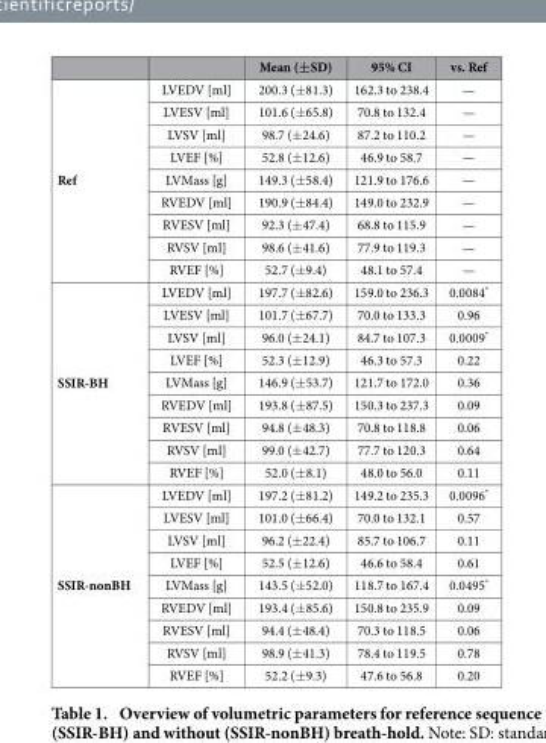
<table><thead><tr><td></td><td></td><td>Mean (±SD)</td><td>95% CI</td><td>vs. Ref</td></tr></thead><tbody><tr><td rowspan="9">Ref</td><td>LVEDV [ml]</td><td>200.3 (± 81.3)</td><td>162.3 to 238.4</td><td>—</td></tr><tr><td>LVESV [ml]</td><td>101.6 (± 65.8)</td><td>70.8 to 132.4</td><td>—</td></tr><tr><td>LVSV [ml]</td><td>98.7 (± 24.6)</td><td>87.2 to 110.2</td><td>—</td></tr><tr><td>LVEF [%]</td><td>52.8 (± 12.6)</td><td>46.9 to 58.7</td><td>—</td></tr><tr><td>LVMass [g]</td><td>149.3 (± 58.4)</td><td>121.9 to 176.6</td><td>—</td></tr><tr><td>RVEDV [ml]</td><td>190.9 (± 84.4)</td><td>149.0 to 232.9</td><td>—</td></tr><tr><td>RVESV [ml]</td><td>92.3 (± 47.4)</td><td>68.8 to 115.9</td><td>—</td></tr><tr><td>RVSV [ml]</td><td>98.6 (± 41.6)</td><td>77.9 to 119.3</td><td>—</td></tr><tr><td>RVEF [%]</td><td>52.7 (± 9.4)</td><td>48.1 to 57.4</td><td>—</td></tr><tr><td rowspan="9">SSIR-BH</td><td>LVEDV [ml]</td><td>197.7 (± 82.6)</td><td>159.0 to 236.3</td><td>0.0084*</td></tr><tr><td>LVESV [ml]</td><td>101.7 (± 67.7)</td><td>70.0 to 133.3</td><td>0.96</td></tr><tr><td>LVSV [ml]</td><td>96.0 (± 24.1)</td><td>84.7 to 107.3</td><td>0.0009*</td></tr><tr><td>LVEF [%]</td><td>52.3 (± 12.9)</td><td>46.3 to 57.3</td><td>0.22</td></tr><tr><td>LVMass [g]</td><td>146.9 (± 53.7)</td><td>121.7 to 172.0</td><td>0.36</td></tr><tr><td>RVEDV [ml]</td><td>193.8 (± 87.5)</td><td>150.3 to 237.3</td><td>0.09</td></tr><tr><td>RVESV [ml]</td><td>94.8 (± 48.3)</td><td>70.8 to 118.8</td><td>0.06</td></tr><tr><td>RVSV [ml]</td><td>99.0 (± 42.7)</td><td>77.7 to 120.3</td><td>0.64</td></tr><tr><td>RVEF [%]</td><td>52.0 (± 8.1)</td><td>48.0 to 56.0</td><td>0.11</td></tr><tr><td rowspan="9">SSIR-nonBH</td><td>LVEDV [ml]</td><td>197.2 (± 81.2)</td><td>149.2 to 235.3</td><td>0.0096*</td></tr><tr><td>LVESV [ml]</td><td>101.0 (± 66.4)</td><td>70.0 to 132.1</td><td>0.57</td></tr><tr><td>LVSV [ml]</td><td>96.2 (± 22.4)</td><td>85.7 to 106.7</td><td>0.11</td></tr><tr><td>LVEF [%]</td><td>52.5 (± 12.6)</td><td>46.6 to 58.4</td><td>0.61</td></tr><tr><td>LVMass [g]</td><td>143.5 (± 52.0)</td><td>118.7 to 167.4</td><td>0.0495*</td></tr><tr><td>RVEDV [ml]</td><td>193.4 (± 85.6)</td><td>150.8 to 235.9</td><td>0.09</td></tr><tr><td>RVESV [ml]</td><td>94.4 (± 48.4)</td><td>70.3 to 118.5</td><td>0.06</td></tr><tr><td>RVSV [ml]</td><td>98.9 (± 41.3)</td><td>78.4 to 119.5</td><td>0.78</td></tr><tr><td>RVEF [%]</td><td>52.2 (± 9.3)</td><td>47.6 to 56.8</td><td>0.20</td></tr></tbody></table>